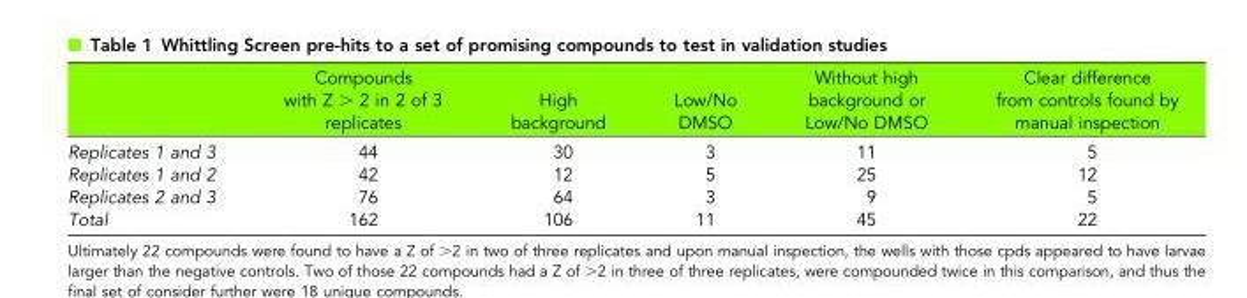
<table><thead><tr><td></td><td>Compounds with Z &gt; 2 in 2 of 3 replicates</td><td>High background</td><td>Low/No DMSO</td><td>Without high background or Low/No DMSO</td><td>Clear difference from controls found by manual inspection</td></tr></thead><tbody><tr><td>Replicates 1 and 3</td><td>44</td><td>30</td><td>3</td><td>11</td><td>5</td></tr><tr><td>Replicates 1 and 2</td><td>42</td><td>12</td><td>5</td><td>25</td><td>12</td></tr><tr><td>Replicates 2 and 3</td><td>76</td><td>64</td><td>3</td><td>9</td><td>5</td></tr><tr><td>Total</td><td>162</td><td>106</td><td>11</td><td>45</td><td>22</td></tr></tbody></table>